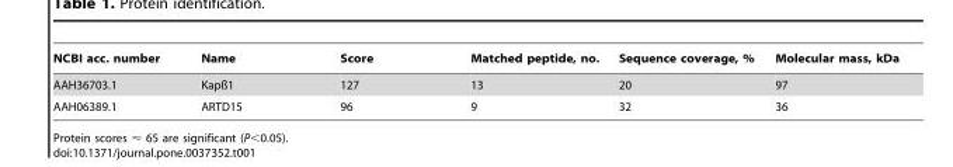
<table><thead><tr><td>NCBI acc. number</td><td>Name</td><td>Score</td><td>Matched peptide, no.</td><td>Sequence coverage, %</td><td>Molecular mass, kDa</td></tr></thead><tbody><tr><td>AAH36703.1</td><td>Kapß1</td><td>127</td><td>13</td><td>20</td><td>97</td></tr><tr><td>AAH06389.1</td><td>ARTD15</td><td>96</td><td>9</td><td>32</td><td>36</td></tr></tbody></table>